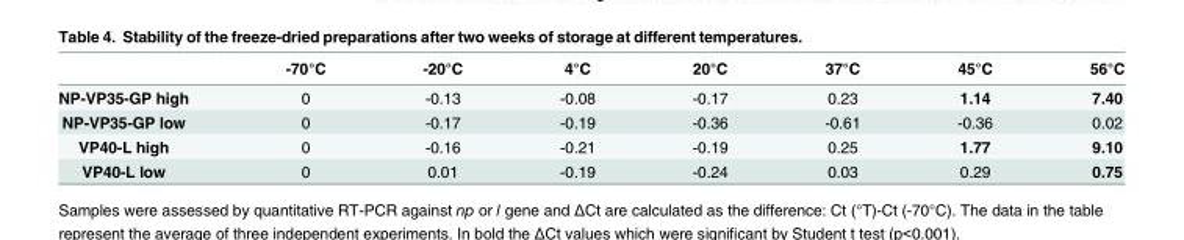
<table><thead><tr><td></td><td>-70°C</td><td>-20°C</td><td>4°C</td><td>20°C</td><td>37°C</td><td>45°C</td><td>56°C</td></tr></thead><tbody><tr><td>NP-VP35-GP high</td><td>0</td><td>-0.13</td><td>-0.08</td><td>-0.17</td><td>0.23</td><td>1.14</td><td>7.40</td></tr><tr><td>NP-VP35-GP low</td><td>0</td><td>-0.17</td><td>-0.19</td><td>-0.36</td><td>-0.61</td><td>-0.36</td><td>0.02</td></tr><tr><td>VP40-L high</td><td>0</td><td>-0.16</td><td>-0.21</td><td>-0.19</td><td>0.25</td><td>1.77</td><td>9.10</td></tr><tr><td>VP40-L low</td><td>0</td><td>0.01</td><td>-0.19</td><td>-0.24</td><td>0.03</td><td>0.29</td><td>0.75</td></tr></tbody></table>